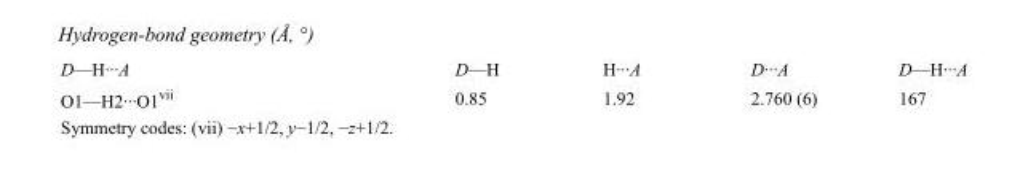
<table><tbody><tr><td>D—H···A</td><td>D—H</td><td>H···A</td><td>D···A</td><td>D—H···A</td></tr><tr><td>O1—H2···O1<sup>vii</sup></td><td>0.85</td><td>1.92</td><td>2.760 (6)</td><td>167</td></tr></tbody></table>